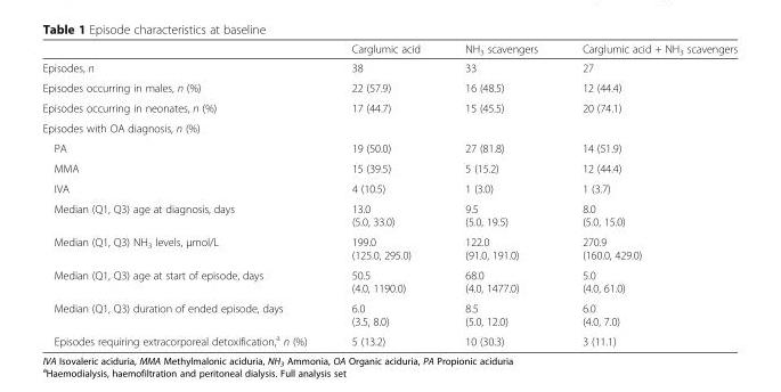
<table><thead><tr><td></td><td>Carglumic acid</td><td>NH<sub>3</sub> scavengers</td><td>Carglumic acid + NH<sub>3</sub> scavengers</td></tr></thead><tbody><tr><td>Episodes, n</td><td>38</td><td>33</td><td>27</td></tr><tr><td>Episodes occurring in males, n (%)</td><td>22 (57.9)</td><td>16 (48.5)</td><td>12 (44.4)</td></tr><tr><td>Episodes occurring in neonates, n (%)</td><td>17 (44.7)</td><td>15 (45.5)</td><td>20 (74.1)</td></tr><tr><td colspan="4">Episodes with OA diagnosis, n (%)</td></tr><tr><td>PA</td><td>19 (50.0)</td><td>27 (81.8)</td><td>14 (51.9)</td></tr><tr><td>MMA</td><td>15 (39.5)</td><td>5 (15.2)</td><td>12 (44.4)</td></tr><tr><td>IVA</td><td>4 (10.5)</td><td>1 (3.0)</td><td>1 (3.7)</td></tr><tr><td>Median (Q1, Q3) age at diagnosis, days</td><td>13.0 (5.0, 33.0)</td><td>9.5 (5.0, 19.5)</td><td>8.0 (5.0, 15.0)</td></tr><tr><td>Median (Q1, Q3) NH<sub>3</sub> levels, μmol/L</td><td>199.0 (125.0, 295.0)</td><td>122.0 (91.0, 191.0)</td><td>270.9 (160.0, 429.0)</td></tr><tr><td>Median (Q1, Q3) age at start of episode, days</td><td>50.5 (4.0, 1190.0)</td><td>68.0 (4.0, 1477.0)</td><td>5.0 (4.0, 61.0)</td></tr><tr><td>Median (Q1, Q3) duration of ended episode, days</td><td>6.0 (3.5, 8.0)</td><td>8.5 (5.0, 12.0)</td><td>6.0 (4.0, 7.0)</td></tr><tr><td>Episodes requiring extracorporeal detoxification,<sup>a</sup> n (%)</td><td>5 (13.2)</td><td>10 (30.3)</td><td>3 (11.1)</td></tr></tbody></table>